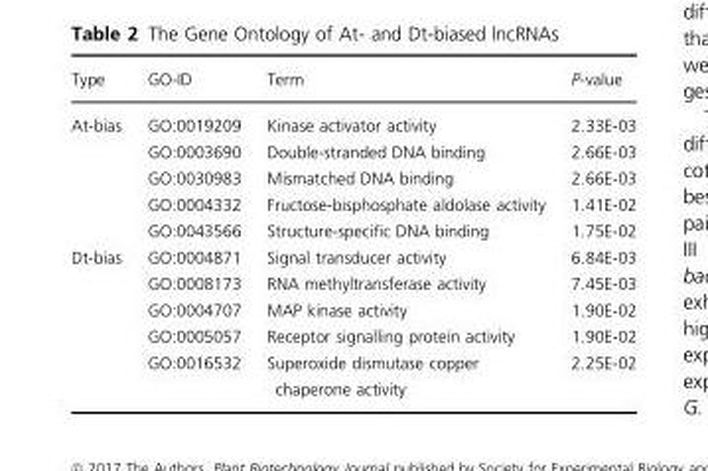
<table><thead><tr><td>Type</td><td>GO-ID</td><td>Term</td><td>P-value</td></tr></thead><tbody><tr><td rowspan="5">At-bias</td><td>GO:0019209</td><td>Kinase activator activity</td><td>2.33E-03</td></tr><tr><td>GO:0003690</td><td>Double-stranded DNA binding</td><td>2.66E-03</td></tr><tr><td>GO:0030983</td><td>Mismatched DNA binding</td><td>2.66E-03</td></tr><tr><td>GO:0004332</td><td>Fructose-bisphosphate aldolase activity</td><td>1.41E-02</td></tr><tr><td>GO:0043566</td><td>Structure-specific DNA binding</td><td>1.75E-02</td></tr><tr><td rowspan="5">Dt-bias</td><td>GO:0004871</td><td>Signal transducer activity</td><td>6.84E-03</td></tr><tr><td>GO:0008173</td><td>RNA methyltransferase activity</td><td>7.45E-03</td></tr><tr><td>GO:0004707</td><td>MAP kinase activity</td><td>1.90E-02</td></tr><tr><td>GO:0005057</td><td>Receptor signalling protein activity</td><td>1.90E-02</td></tr><tr><td>GO:0016532</td><td>Superoxide dismutase copper chaperone activity</td><td>2.25E-02</td></tr></tbody></table>